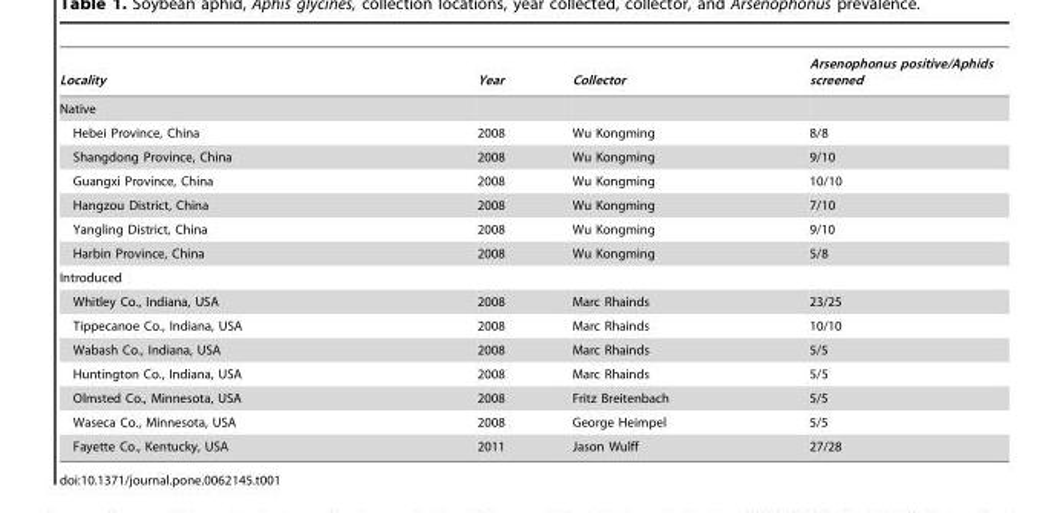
<table><thead><tr><td>Locality</td><td>Year</td><td>Collector</td><td>Arsenophonus positive/Aphids screened</td></tr></thead><tbody><tr><td colspan="4">Native</td></tr><tr><td>Hebei Province, China</td><td>2008</td><td>Wu Kongming</td><td>8/8</td></tr><tr><td>Shangdong Province, China</td><td>2008</td><td>Wu Kongming</td><td>9/10</td></tr><tr><td>Guangxi Province, China</td><td>2008</td><td>Wu Kongming</td><td>10/10</td></tr><tr><td>Hangzou District, China</td><td>2008</td><td>Wu Kongming</td><td>7/10</td></tr><tr><td>Yangling District, China</td><td>2008</td><td>Wu Kongming</td><td>9/10</td></tr><tr><td>Harbin Province, China</td><td>2008</td><td>Wu Kongming</td><td>5/8</td></tr><tr><td colspan="4">Introduced</td></tr><tr><td>Whitley Co., Indiana, USA</td><td>2008</td><td>Marc Rhainds</td><td>23/25</td></tr><tr><td>Tippecanoe Co., Indiana, USA</td><td>2008</td><td>Marc Rhainds</td><td>10/10</td></tr><tr><td>Wabash Co., Indiana, USA</td><td>2008</td><td>Marc Rhainds</td><td>5/5</td></tr><tr><td>Huntington Co., Indiana, USA</td><td>2008</td><td>Marc Rhainds</td><td>5/5</td></tr><tr><td>Olmsted Co., Minnesota, USA</td><td>2008</td><td>Fritz Breitenbach</td><td>5/5</td></tr><tr><td>Waseca Co., Minnesota, USA</td><td>2008</td><td>George Heimpel</td><td>5/5</td></tr><tr><td>Fayette Co., Kentucky, USA</td><td>2011</td><td>Jason Wulff</td><td>27/28</td></tr></tbody></table>